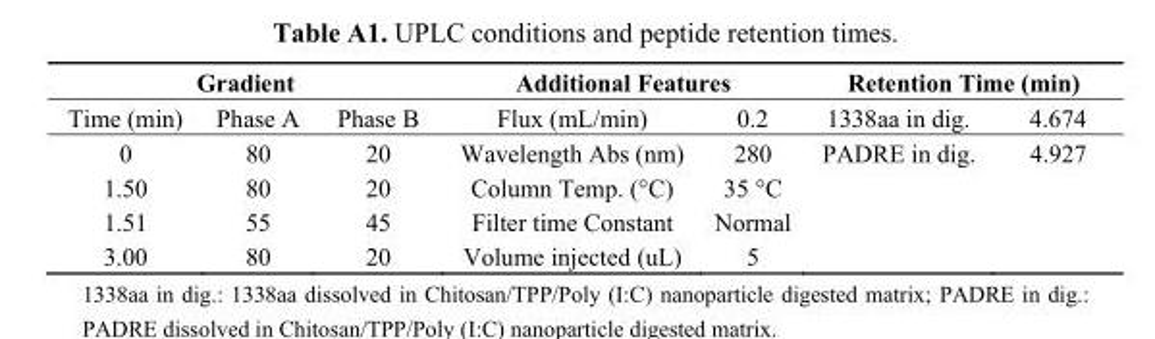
<table><thead><tr><td colspan="3">Gradient</td><td colspan="2">Additional Features</td><td colspan="2">Retention Time (min)</td></tr><tr><td>Time (min)</td><td>Phase A</td><td>Phase B</td><td>Flux (mL/min)</td><td>0.2</td><td>1338aa in dig.</td><td>4.674</td></tr></thead><tbody><tr><td>0</td><td>80</td><td>20</td><td>Wavelength Abs (nm)</td><td>280</td><td>PADRE in dig.</td><td>4.927</td></tr><tr><td>1.50</td><td>80</td><td>20</td><td>Column Temp. (°C)</td><td>35 °C</td><td></td><td></td></tr><tr><td>1.51</td><td>55</td><td>45</td><td>Filter time Constant</td><td>Normal</td><td></td><td></td></tr><tr><td>3.00</td><td>80</td><td>20</td><td>Volume injected (uL)</td><td>5</td><td></td><td></td></tr></tbody></table>